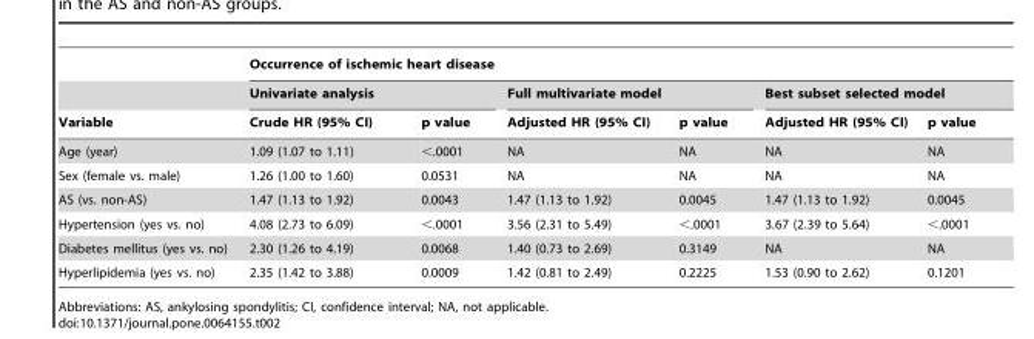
<table><thead><tr><td rowspan="3">Variable</td><td colspan="6">Occurrence of ischemic heart disease</td></tr><tr><td colspan="2">Univariate analysis</td><td colspan="2">Full multivariate model</td><td colspan="2">Best subset selected model</td></tr><tr><td>Crude HR (95% CI)</td><td>p value</td><td>Adjusted HR (95% CI)</td><td>p value</td><td>Adjusted HR (95% CI)</td><td>p value</td></tr></thead><tbody><tr><td>Age (year)</td><td>1.09 (1.07 to 1.11)</td><td>&lt;.0001</td><td>NA</td><td>NA</td><td>NA</td><td>NA</td></tr><tr><td>Sex (female vs. male)</td><td>1.26 (1.00 to 1.60)</td><td>0.0531</td><td>NA</td><td>NA</td><td>NA</td><td>NA</td></tr><tr><td>AS (vs. non-AS)</td><td>1.47 (1.13 to 1.92)</td><td>0.0043</td><td>1.47 (1.13 to 1.92)</td><td>0.0045</td><td>1.47 (1.13 to 1.92)</td><td>0.0045</td></tr><tr><td>Hypertension (yes vs. no)</td><td>4.08 (2.73 to 6.09)</td><td>&lt;.0001</td><td>3.56 (2.31 to 5.49)</td><td>&lt;.0001</td><td>3.67 (2.39 to 5.64)</td><td>&lt;.0001</td></tr><tr><td>Diabetes mellitus (yes vs. no)</td><td>2.30 (1.26 to 4.19)</td><td>0.0068</td><td>1.40 (0.73 to 2.69)</td><td>0.3149</td><td>NA</td><td>NA</td></tr><tr><td>Hyperlipidemia (yes vs. no)</td><td>2.35 (1.42 to 3.88)</td><td>0.0009</td><td>1.42 (0.81 to 2.49)</td><td>0.2225</td><td>1.53 (0.90 to 2.62)</td><td>0.1201</td></tr></tbody></table>